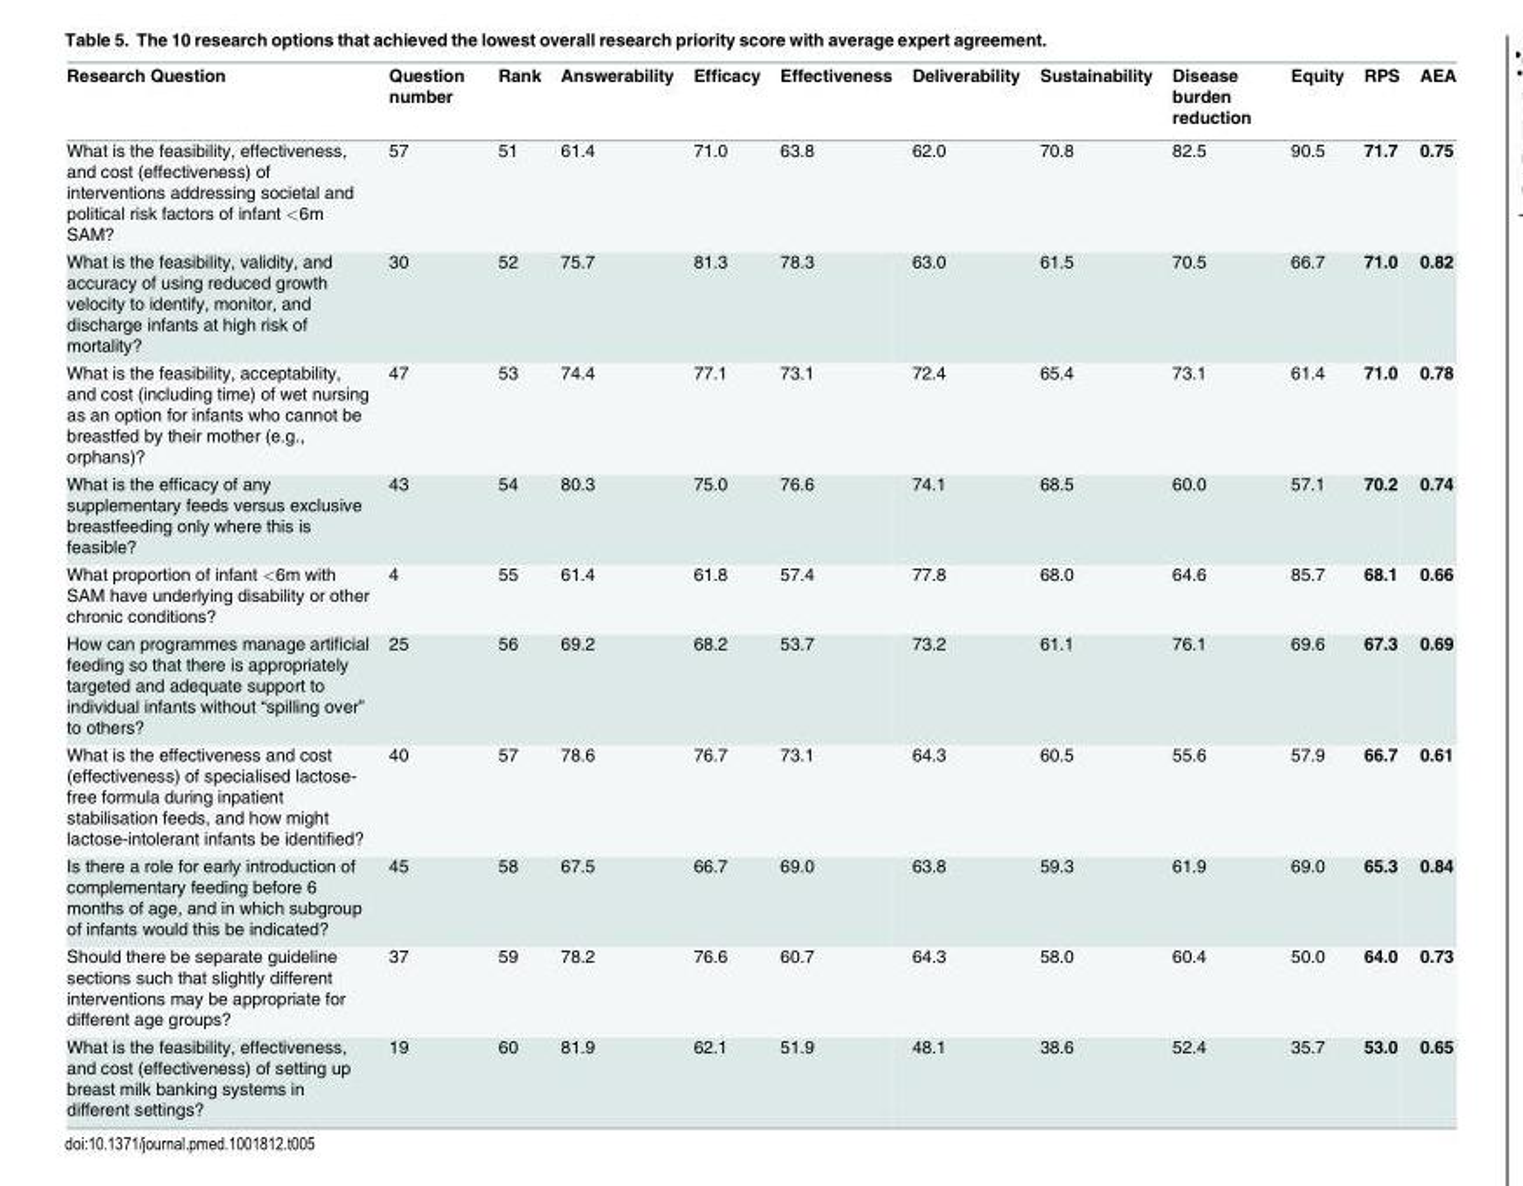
<table><thead><tr><td>Research Question</td><td>Question number</td><td>Rank</td><td>Answerability</td><td>Efficacy</td><td>Effectiveness</td><td>Deliverability</td><td>Sustainability</td><td>Disease burden reduction</td><td>Equity</td><td>RPS</td><td>AEA</td></tr></thead><tbody><tr><td>What is the feasibility, effectiveness, and cost (effectiveness) of interventions addressing societal and political risk factors of infant &lt;6m SAM?</td><td>57</td><td>51</td><td>61.4</td><td>71.0</td><td>63.8</td><td>62.0</td><td>70.8</td><td>82.5</td><td>90.5</td><td>71.7</td><td>0.75</td></tr><tr><td>What is the feasibility, validity, and accuracy of using reduced growth velocity to identify, monitor, and discharge infants at high risk of mortality?</td><td>30</td><td>52</td><td>75.7</td><td>81.3</td><td>78.3</td><td>63.0</td><td>61.5</td><td>70.5</td><td>66.7</td><td>71.0</td><td>0.82</td></tr><tr><td>What is the feasibility, acceptability, and cost (including time) of wet nursing as an option for infants who cannot be breastfed by their mother (e.g., orphans)?</td><td>47</td><td>53</td><td>74.4</td><td>77.1</td><td>73.1</td><td>72.4</td><td>65.4</td><td>73.1</td><td>61.4</td><td>71.0</td><td>0.78</td></tr><tr><td>What is the efficacy of any supplementary feeds versus exclusive breastfeeding only where this is feasible?</td><td>43</td><td>54</td><td>80.3</td><td>75.0</td><td>76.6</td><td>74.1</td><td>68.5</td><td>60.0</td><td>57.1</td><td>70.2</td><td>0.74</td></tr><tr><td>What proportion of infant &lt;6m with SAM have underlying disability or other chronic conditions?</td><td>4</td><td>55</td><td>61.4</td><td>61.8</td><td>57.4</td><td>77.8</td><td>68.0</td><td>64.6</td><td>85.7</td><td>68.1</td><td>0.66</td></tr><tr><td>How can programmes manage artificial feeding so that there is appropriately targeted and adequate support to individual infants without “spilling over” to others?</td><td>25</td><td>56</td><td>69.2</td><td>68.2</td><td>53.7</td><td>73.2</td><td>61.1</td><td>76.1</td><td>69.6</td><td>67.3</td><td>0.69</td></tr><tr><td>What is the effectiveness and cost (effectiveness) of specialised lactose- free formula during inpatient stabilisation feeds, and how might lactose-intolerant infants be identified?</td><td>40</td><td>57</td><td>78.6</td><td>76.7</td><td>73.1</td><td>64.3</td><td>60.5</td><td>55.6</td><td>57.9</td><td>66.7</td><td>0.61</td></tr><tr><td>Is there a role for early introduction of complementary feeding before 6 months of age, and in which subgroup of infants would this be indicated?</td><td>45</td><td>58</td><td>67.5</td><td>66.7</td><td>69.0</td><td>63.8</td><td>59.3</td><td>61.9</td><td>69.0</td><td>65.3</td><td>0.84</td></tr><tr><td>Should there be separate guideline sections such that slightly different interventions may be appropriate for different age groups?</td><td>37</td><td>59</td><td>78.2</td><td>76.6</td><td>60.7</td><td>64.3</td><td>58.0</td><td>60.4</td><td>50.0</td><td>64.0</td><td>0.73</td></tr><tr><td>What is the feasibility, effectiveness, and cost (effectiveness) of setting up breast milk banking systems in different settings?</td><td>19</td><td>60</td><td>81.9</td><td>62.1</td><td>51.9</td><td>48.1</td><td>38.6</td><td>52.4</td><td>35.7</td><td>53.0</td><td>0.65</td></tr></tbody></table>